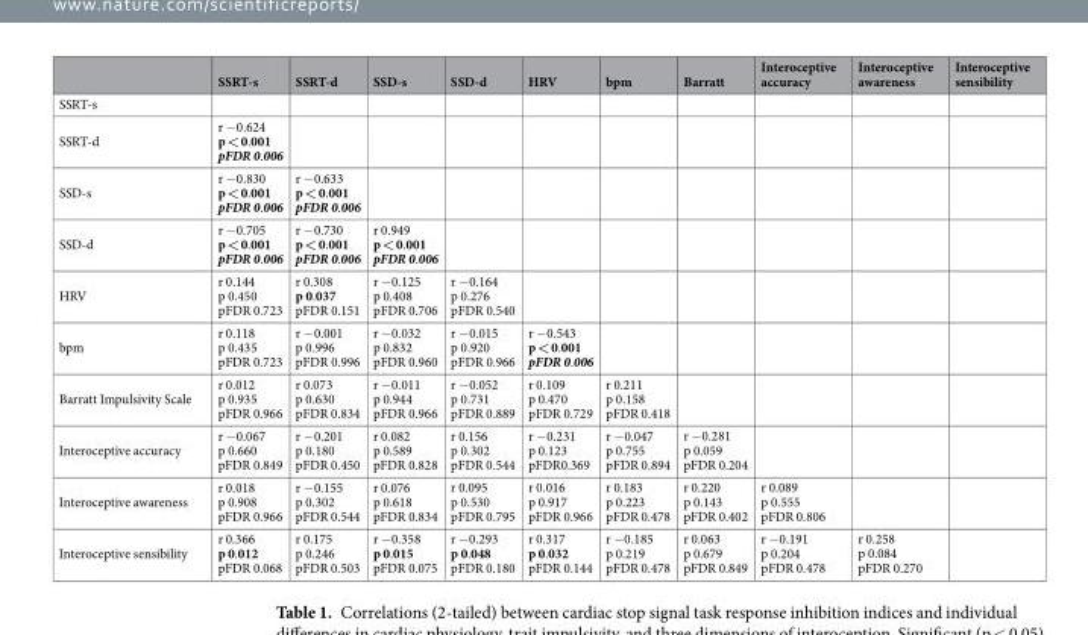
<table><thead><tr><td></td><td>SSRT-s</td><td>SSRT-d</td><td>SSD-s</td><td>SSD-d</td><td>HRV</td><td>bpm</td><td>Barratt</td><td>Interoceptive accuracy</td><td>Interoceptive awareness</td><td>Interoceptive sensibility</td></tr></thead><tbody><tr><td colspan="11">SSRT-s</td></tr><tr><td>SSRT-d</td><td>r −0.624 p &lt; 0.001 pFDR 0.006</td><td></td><td></td><td></td><td></td><td></td><td></td><td></td><td></td><td></td></tr><tr><td>SSD-s</td><td>r −0.830 p &lt; 0.001 pFDR 0.006</td><td>r −0.633 p &lt; 0.001 pFDR 0.006</td><td></td><td></td><td></td><td></td><td></td><td></td><td></td><td></td></tr><tr><td>SSD-d</td><td>r −0.705 p &lt; 0.001 pFDR 0.006</td><td>r −0.730 p &lt; 0.001 pFDR 0.006</td><td>r 0.949 p &lt; 0.001 pFDR 0.006</td><td></td><td></td><td></td><td></td><td></td><td></td><td></td></tr><tr><td>HRV</td><td>r 0.144 p 0.450 pFDR 0.723</td><td>r 0.308 p 0.037 pFDR 0.151</td><td>r −0.125 p 0.408 pFDR 0.706</td><td>r −0.164 p 0.276 pFDR 0.540</td><td></td><td></td><td></td><td></td><td></td><td></td></tr><tr><td>bpm</td><td>r 0.118 p 0.435 pFDR 0.723</td><td>r −0.001 p 0.996 pFDR 0.996</td><td>r −0.032 p 0.832 pFDR 0.960</td><td>r −0.015 p 0.920 pFDR 0.966</td><td>r −0.543 p &lt; 0.001 pFDR 0.006</td><td></td><td></td><td></td><td></td><td></td></tr><tr><td>Barratt Impulsivity Scale</td><td>r 0.012 p 0.935 pFDR 0.966</td><td>r 0.073 p 0.630 pFDR 0.834</td><td>r −0.011 p 0.944 pFDR 0.966</td><td>r −0.052 p 0.731 pFDR 0.889</td><td>r 0.109 p 0.470 pFDR 0.729</td><td>r 0.211 p 0.158 pFDR 0.418</td><td></td><td></td><td></td><td></td></tr><tr><td>Interoceptive accuracy</td><td>r −0.067 p 0.660 pFDR 0.849</td><td>r −0.201 p 0.180 pFDR 0.450</td><td>r 0.082 p 0.589 pFDR 0.828</td><td>r 0.156 p 0.302 pFDR 0.544</td><td>r −0.231 p 0.123 pFDR0.369</td><td>r −0.047 p 0.755 pFDR 0.894</td><td>r −0.281 p 0.059 pFDR 0.204</td><td></td><td></td><td></td></tr><tr><td>Interoceptive awareness</td><td>r 0.018 p 0.908 pFDR 0.966</td><td>r −0.155 p 0.302 pFDR 0.544</td><td>r 0.076 p 0.618 pFDR 0.834</td><td>r 0.095 p 0.530 pFDR 0.795</td><td>r 0.016 p 0.917 pFDR 0.966</td><td>r 0.183 p 0.223 pFDR 0.478</td><td>r 0.220 p 0.143 pFDR 0.402</td><td>r 0.089 p 0.555 pFDR 0.806</td><td></td><td></td></tr><tr><td>Interoceptive sensibility</td><td>r 0.366 p 0.012 pFDR 0.068</td><td>r 0.175 p 0.246 pFDR 0.503</td><td>r −0.358 p 0.015 pFDR 0.075</td><td>r −0.293 p 0.048 pFDR 0.180</td><td>r 0.317 p 0.032 pFDR 0.144</td><td>r −0.185 p 0.219 pFDR 0.478</td><td>r 0.063 p 0.679 pFDR 0.849</td><td>r −0.191 p 0.204 pFDR 0.478</td><td>r 0.258 p 0.084 pFDR 0.270</td><td></td></tr></tbody></table>